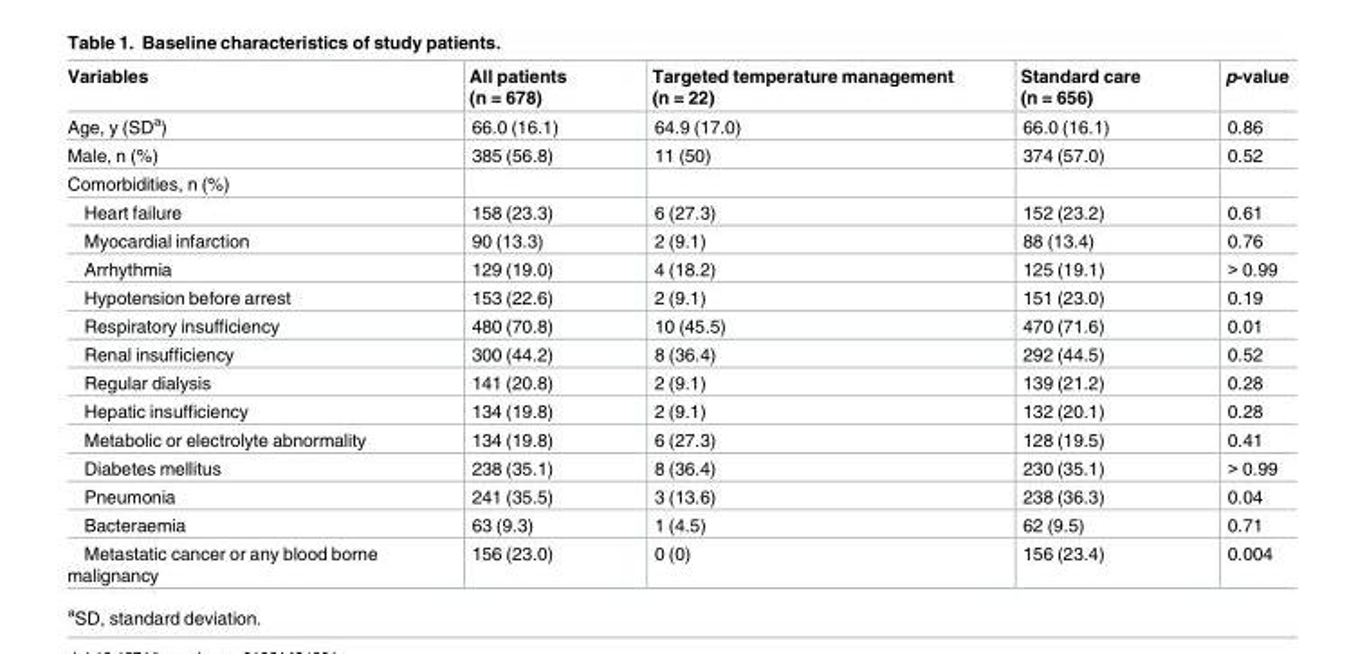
<table><thead><tr><td>Variables</td><td>All patients (n = 678)</td><td>Targeted temperature management (n = 22)</td><td>Standard care (n = 656)</td><td>p-value</td></tr></thead><tbody><tr><td>Age, y (SD<sup>a</sup>)</td><td>66.0 (16.1)</td><td>64.9 (17.0)</td><td>66.0 (16.1)</td><td>0.86</td></tr><tr><td>Male, n (%)</td><td>385 (56.8)</td><td>11 (50)</td><td>374 (57.0)</td><td>0.52</td></tr><tr><td colspan="5">Comorbidities, n (%)</td></tr><tr><td>Heart failure</td><td>158 (23.3)</td><td>6 (27.3)</td><td>152 (23.2)</td><td>0.61</td></tr><tr><td>Myocardial infarction</td><td>90 (13.3)</td><td>2 (9.1)</td><td>88 (13.4)</td><td>0.76</td></tr><tr><td>Arrhythmia</td><td>129 (19.0)</td><td>4 (18.2)</td><td>125 (19.1)</td><td>&gt; 0.99</td></tr><tr><td>Hypotension before arrest</td><td>153 (22.6)</td><td>2 (9.1)</td><td>151 (23.0)</td><td>0.19</td></tr><tr><td>Respiratory insufficiency</td><td>480 (70.8)</td><td>10 (45.5)</td><td>470 (71.6)</td><td>0.01</td></tr><tr><td>Renal insufficiency</td><td>300 (44.2)</td><td>8 (36.4)</td><td>292 (44.5)</td><td>0.52</td></tr><tr><td>Regular dialysis</td><td>141 (20.8)</td><td>2 (9.1)</td><td>139 (21.2)</td><td>0.28</td></tr><tr><td>Hepatic insufficiency</td><td>134 (19.8)</td><td>2 (9.1)</td><td>132 (20.1)</td><td>0.28</td></tr><tr><td>Metabolic or electrolyte abnormality</td><td>134 (19.8)</td><td>6 (27.3)</td><td>128 (19.5)</td><td>0.41</td></tr><tr><td>Diabetes mellitus</td><td>238 (35.1)</td><td>8 (36.4)</td><td>230 (35.1)</td><td>&gt; 0.99</td></tr><tr><td>Pneumonia</td><td>241 (35.5)</td><td>3 (13.6)</td><td>238 (36.3)</td><td>0.04</td></tr><tr><td>Bacteraemia</td><td>63 (9.3)</td><td>1 (4.5)</td><td>62 (9.5)</td><td>0.71</td></tr><tr><td>Metastatic cancer or any blood borne malignancy</td><td>156 (23.0)</td><td>0 (0)</td><td>156 (23.4)</td><td>0.004</td></tr></tbody></table>